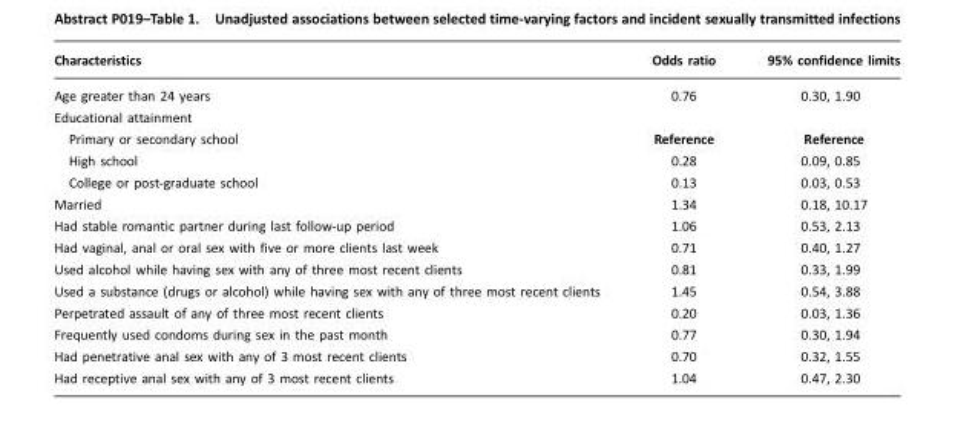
<table><thead><tr><td>Characteristics</td><td>Odds ratio</td><td>95% confidence limits</td></tr></thead><tbody><tr><td>Age greater than 24 years</td><td>0.76</td><td>0.30, 1.90</td></tr><tr><td colspan="3">Educational attainment</td></tr><tr><td>Primary or secondary school</td><td>Reference</td><td>Reference</td></tr><tr><td>High school</td><td>0.28</td><td>0.09, 0.85</td></tr><tr><td>College or post-graduate school</td><td>0.13</td><td>0.03, 0.53</td></tr><tr><td>Married</td><td>1.34</td><td>0.18, 10.17</td></tr><tr><td>Had stable romantic partner during last follow-up period</td><td>1.06</td><td>0.53, 2.13</td></tr><tr><td>Had vaginal, anal or oral sex with five or more clients last week</td><td>0.71</td><td>0.40, 1.27</td></tr><tr><td>Used alcohol while having sex with any of three most recent clients</td><td>0.81</td><td>0.33, 1.99</td></tr><tr><td>Used a substance (drugs or alcohol) while having sex with any of three most recent clients</td><td>1.45</td><td>0.54, 3.88</td></tr><tr><td>Perpetrated assault of any of three most recent clients</td><td>0.20</td><td>0.03, 1.36</td></tr><tr><td>Frequently used condoms during sex in the past month</td><td>0.77</td><td>0.30, 1.94</td></tr><tr><td>Had penetrative anal sex with any of 3 most recent clients</td><td>0.70</td><td>0.32, 1.55</td></tr><tr><td>Had receptive anal sex with any of 3 most recent clients</td><td>1.04</td><td>0.47, 2.30</td></tr></tbody></table>